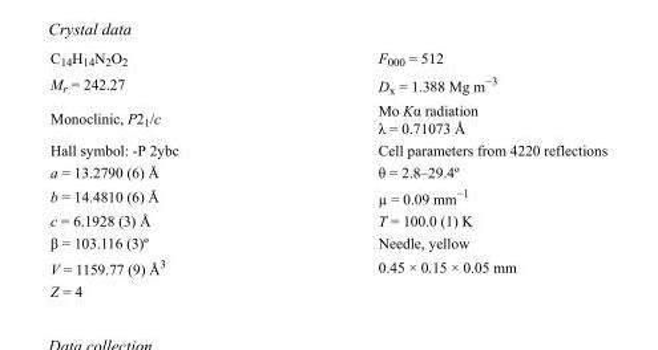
<table><tbody><tr><td>C<sub>14</sub>H<sub>14</sub>N<sub>2</sub>O<sub>2</sub></td><td>F<sub>000</sub> = 512</td></tr><tr><td>M<sub>r</sub> = 242.27</td><td>D<sub>x</sub> = 1.388 Mg m<sup>−3</sup></td></tr><tr><td>Monoclinic, P2<sub>1</sub>/c</td><td>Mo Kα radiation λ = 0.71073 Å</td></tr><tr><td>Hall symbol: -P 2ybc</td><td>Cell parameters from 4220 reflections</td></tr><tr><td>a = 13.2790 (6) Å</td><td>θ = 2.8–29.4º</td></tr><tr><td>b = 14.4810 (6) Å</td><td>µ = 0.09 mm<sup>−1</sup></td></tr><tr><td>c = 6.1928 (3) Å</td><td>T = 100.0 (1) K</td></tr><tr><td>β = 103.116 (3)º</td><td>Needle, yellow</td></tr><tr><td>V = 1159.77 (9) Å<sup>3</sup></td><td>0.45 × 0.15 × 0.05 mm</td></tr><tr><td>Z = 4</td><td></td></tr></tbody></table>